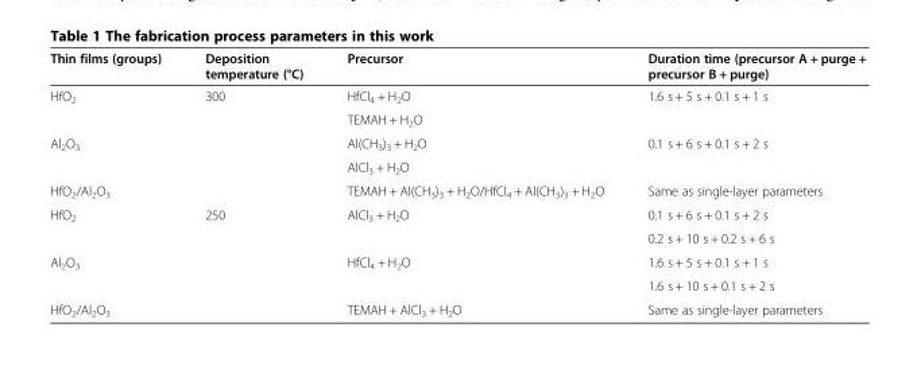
<table><thead><tr><td>Thin films (groups)</td><td>Deposition temperature (°C)</td><td>Precursor</td><td>Duration time (precursor A + purge + precursor B + purge)</td></tr></thead><tbody><tr><td rowspan="2">HfO<sub>2</sub></td><td rowspan="5">300</td><td>HfCl<sub>4</sub> + H<sub>2</sub>O</td><td rowspan="2">1.6 s + 5 s + 0.1 s + 1 s</td></tr><tr><td>TEMAH + H<sub>2</sub>O</td></tr><tr><td rowspan="2">Al<sub>2</sub>O<sub>3</sub></td><td>Al(CH<sub>3</sub>)<sub>3</sub> + H<sub>2</sub>O</td><td rowspan="2">0.1 s + 6 s + 0.1 s + 2 s</td></tr><tr><td>AlCl<sub>3</sub> + H<sub>2</sub>O</td></tr><tr><td>HfO<sub>2</sub>/Al<sub>2</sub>O<sub>3</sub></td><td>TEMAH + Al(CH<sub>3</sub>)<sub>3</sub> + H<sub>2</sub>O/HfCl<sub>4</sub> + Al(CH<sub>3</sub>)<sub>3</sub> + H<sub>2</sub>O</td><td>Same as single-layer parameters</td></tr><tr><td rowspan="2">HfO<sub>2</sub></td><td rowspan="5">250</td><td rowspan="2">AlCl<sub>3</sub> + H<sub>2</sub>O</td><td>0.1 s + 6 s + 0.1 s + 2 s</td></tr><tr><td>0.2 s + 10 s + 0.2 s + 6 s</td></tr><tr><td rowspan="2">Al<sub>2</sub>O<sub>3</sub></td><td rowspan="2">HfCl<sub>4</sub> + H<sub>2</sub>O</td><td>1.6 s + 5 s + 0.1 s + 1 s</td></tr><tr><td>1.6 s + 10 s + 0.1 s + 2 s</td></tr><tr><td>HfO<sub>2</sub>/Al<sub>2</sub>O<sub>3</sub></td><td>TEMAH + AlCl<sub>3</sub> + H<sub>2</sub>O</td><td>Same as single-layer parameters</td></tr></tbody></table>